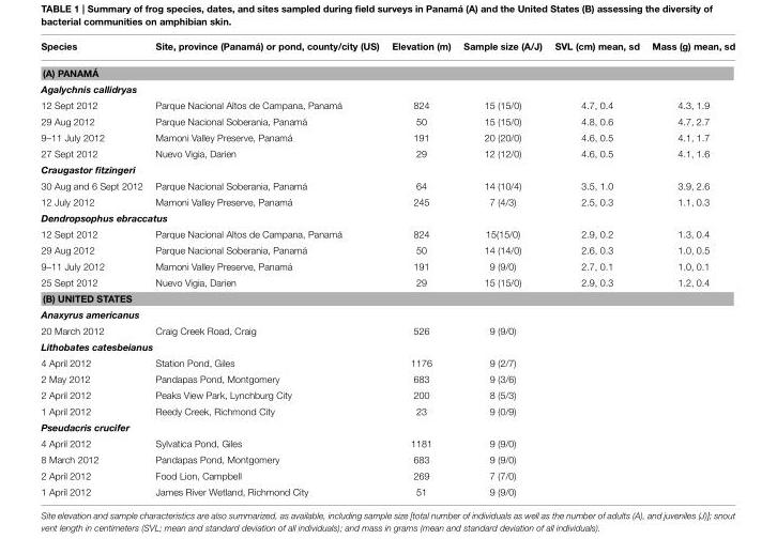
<table><thead><tr><td>Species</td><td>Site, province (Panamá) or pond, county/city (US)</td><td>Elevation (m)</td><td>Sample size (A/J)</td><td>SVL (cm) mean, sd</td><td>Mass (g) mean, sd</td></tr></thead><tbody><tr><td colspan="6">(A) PANAMÁ</td></tr><tr><td colspan="6">Agalychnis callidryas</td></tr><tr><td>12 Sept 2012</td><td>Parque Nacional Altos de Campana, Panamá</td><td>824</td><td>15 (15/0)</td><td>4.7, 0.4</td><td>4.3, 1.9</td></tr><tr><td>29 Aug 2012</td><td>Parque Nacional Soberania, Panamá</td><td>50</td><td>15 (15/0)</td><td>4.8, 0.6</td><td>4.7, 2.7</td></tr><tr><td>9–11 July 2012</td><td>Mamoni Valley Preserve, Panamá</td><td>191</td><td>20 (20/0)</td><td>4.6, 0.5</td><td>4.1, 1.7</td></tr><tr><td>27 Sept 2012</td><td>Nuevo Vigia, Darien</td><td>29</td><td>12 (12/0)</td><td>4.6, 0.5</td><td>4.1, 1.6</td></tr><tr><td colspan="6">Craugastor fitzingeri</td></tr><tr><td>30 Aug and 6 Sept 2012</td><td>Parque Nacional Soberania, Panamá</td><td>64</td><td>14 (10/4)</td><td>3.5, 1.0</td><td>3.9, 2.6</td></tr><tr><td>12 July 2012</td><td>Mamoni Valley Preserve, Panamá</td><td>245</td><td>7 (4/3)</td><td>2.5, 0.3</td><td>1.1, 0.3</td></tr><tr><td colspan="6">Dendropsophus ebraccatus</td></tr><tr><td>12 Sept 2012</td><td>Parque Nacional Altos de Campana, Panamá</td><td>824</td><td>15(15/0)</td><td>2.9, 0.2</td><td>1.3, 0.4</td></tr><tr><td>29 Aug 2012</td><td>Parque Nacional Soberania, Panamá</td><td>50</td><td>14 (14/0)</td><td>2.6, 0.3</td><td>1.0, 0.5</td></tr><tr><td>9–11 July 2012</td><td>Mamoni Valley Preserve, Panamá</td><td>191</td><td>9 (9/0)</td><td>2.7, 0.1</td><td>1.0, 0.1</td></tr><tr><td>25 Sept 2012</td><td>Nuevo Vigia, Darien</td><td>29</td><td>15 (15/0)</td><td>2.9, 0.3</td><td>1.2, 0.4</td></tr><tr><td colspan="6">(B) UNITED STATES</td></tr><tr><td colspan="6">Anaxyrus americanus</td></tr><tr><td>20 March 2012</td><td>Craig Creek Road, Craig</td><td>526</td><td>9 (9/0)</td><td></td><td></td></tr><tr><td colspan="6">Lithobates catesbeianus</td></tr><tr><td>4 April 2012</td><td>Station Pond, Giles</td><td>1176</td><td>9 (2/7)</td><td></td><td></td></tr><tr><td>2 May 2012</td><td>Pandapas Pond, Montgomery</td><td>683</td><td>9 (3/6)</td><td></td><td></td></tr><tr><td>2 April 2012</td><td>Peaks View Park, Lynchburg City</td><td>200</td><td>8 (5/3)</td><td></td><td></td></tr><tr><td>1 April 2012</td><td>Reedy Creek, Richmond City</td><td>23</td><td>9 (0/9)</td><td></td><td></td></tr><tr><td colspan="6">Pseudacris crucifer</td></tr><tr><td>4 April 2012</td><td>Sylvatica Pond, Giles</td><td>1181</td><td>9 (9/0)</td><td></td><td></td></tr><tr><td>8 March 2012</td><td>Pandapas Pond, Montgomery</td><td>683</td><td>9 (9/0)</td><td></td><td></td></tr><tr><td>2 April 2012</td><td>Food Lion, Campbell</td><td>269</td><td>7 (7/0)</td><td></td><td></td></tr><tr><td>1 April 2012</td><td>James River Wetland, Richmond City</td><td>51</td><td>9 (9/0)</td><td></td><td></td></tr></tbody></table>